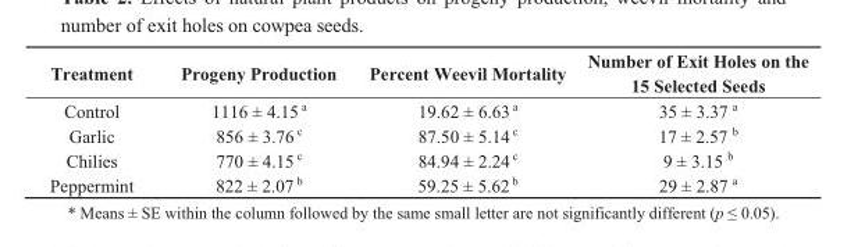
<table><thead><tr><td>Treatment</td><td>Progeny Production</td><td>Percent Weevil Mortality</td><td>Number of Exit Holes on the 15 Selected Seeds</td></tr></thead><tbody><tr><td>Control</td><td>1116 ± 4.15 <sup>a</sup></td><td>19.62 ± 6.63 <sup>a</sup></td><td>35 ± 3.37 <sup>a</sup></td></tr><tr><td>Garlic</td><td>856 ± 3.76 <sup>c</sup></td><td>87.50 ± 5.14 <sup>c</sup></td><td>17 ± 2.57 <sup>b</sup></td></tr><tr><td>Chilies</td><td>770 ± 4.15 <sup>c</sup></td><td>84.94 ± 2.24 <sup>c</sup></td><td>9 ± 3.15 <sup>b</sup></td></tr><tr><td>Peppermint</td><td>822 ± 2.07 <sup>b</sup></td><td>59.25 ± 5.62 <sup>b</sup></td><td>29 ± 2.87 <sup>a</sup></td></tr></tbody></table>